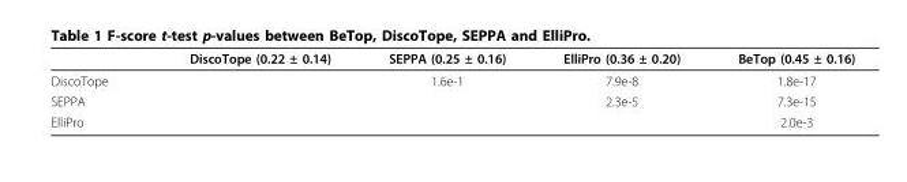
<table><thead><tr><td></td><td>DiscoTope (0.22 ± 0.14)</td><td>SEPPA (0.25 ± 0.16)</td><td>ElliPro (0.36 ± 0.20)</td><td>BeTop (0.45 ± 0.16)</td></tr></thead><tbody><tr><td>DiscoTope</td><td></td><td>1.6e-1</td><td>7.9e-8</td><td>1.8e-17</td></tr><tr><td>SEPPA</td><td></td><td></td><td>2.3e-5</td><td>7.3e-15</td></tr><tr><td>ElliPro</td><td></td><td></td><td></td><td>2.0e-3</td></tr></tbody></table>